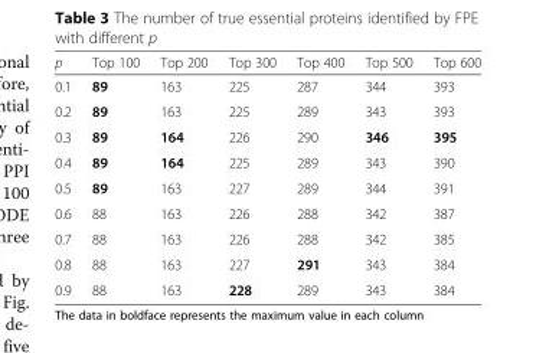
<table><thead><tr><td>p</td><td>Top 100</td><td>Top 200</td><td>Top 300</td><td>Top 400</td><td>Top 500</td><td>Top 600</td></tr></thead><tbody><tr><td>0.1</td><td>89</td><td>163</td><td>225</td><td>287</td><td>344</td><td>393</td></tr><tr><td>0.2</td><td>89</td><td>163</td><td>225</td><td>289</td><td>343</td><td>393</td></tr><tr><td>0.3</td><td>89</td><td>164</td><td>226</td><td>290</td><td>346</td><td>395</td></tr><tr><td>0.4</td><td>89</td><td>164</td><td>225</td><td>289</td><td>343</td><td>390</td></tr><tr><td>0.5</td><td>89</td><td>163</td><td>227</td><td>289</td><td>344</td><td>391</td></tr><tr><td>0.6</td><td>88</td><td>163</td><td>226</td><td>288</td><td>342</td><td>387</td></tr><tr><td>0.7</td><td>88</td><td>163</td><td>226</td><td>288</td><td>342</td><td>385</td></tr><tr><td>0.8</td><td>88</td><td>163</td><td>227</td><td>291</td><td>343</td><td>384</td></tr><tr><td>0.9</td><td>88</td><td>163</td><td>228</td><td>289</td><td>343</td><td>384</td></tr></tbody></table>